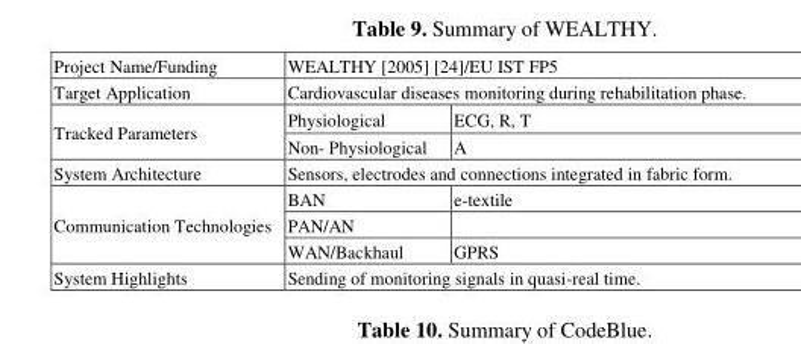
<table><tbody><tr><td>Project Name/Funding</td><td colspan="2">WEALTHY [2005] [24]/EU IST FP5</td></tr><tr><td>Target Application</td><td colspan="2">Cardiovascular diseases monitoring during rehabilitation phase.</td></tr><tr><td rowspan="2">Tracked Parameters</td><td>Physiological</td><td>ECG, R, T</td></tr><tr><td>Non- Physiological</td><td>A</td></tr><tr><td>System Architecture</td><td colspan="2">Sensors, electrodes and connections integrated in fabric form.</td></tr><tr><td rowspan="3">Communication Technologies</td><td>BAN</td><td>e-textile</td></tr><tr><td>PAN/AN</td><td></td></tr><tr><td>WAN/Backhaul</td><td>GPRS</td></tr><tr><td>System Highlights</td><td colspan="2">Sending of monitoring signals in quasi-real time.</td></tr></tbody></table>